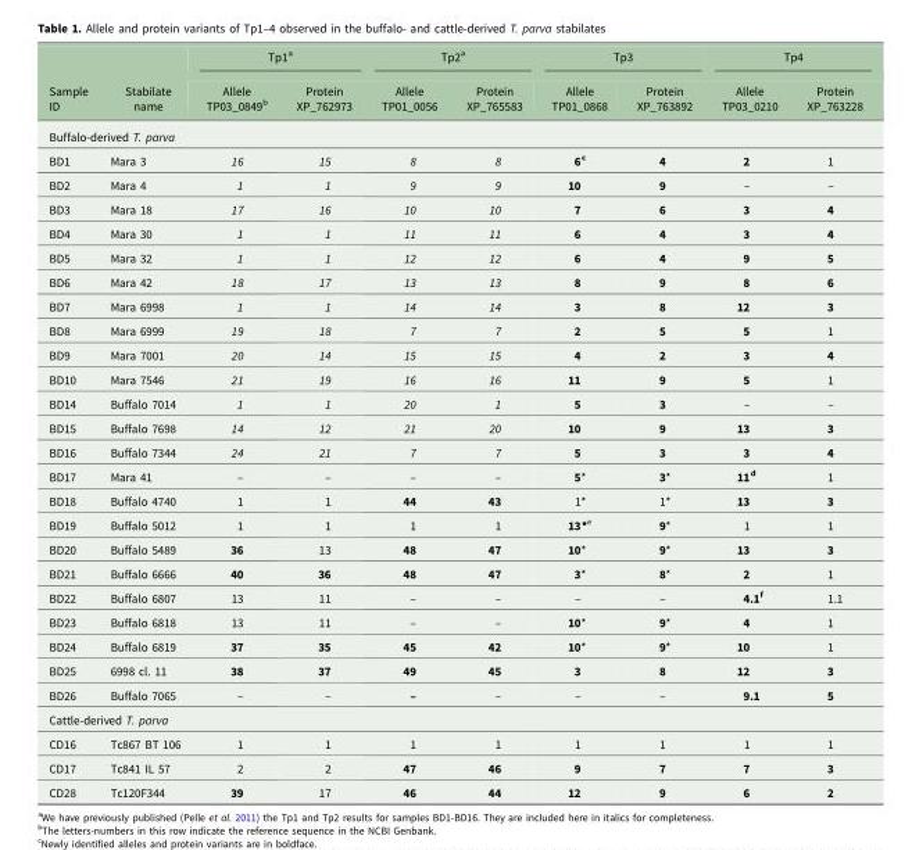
<table><thead><tr><td rowspan="2">Sample ID</td><td rowspan="2">Stabilate name</td><td colspan="2">Tp1<sup>a</sup></td><td colspan="2">Tp2<sup>a</sup></td><td colspan="2">Tp3</td><td colspan="2">Tp4</td></tr><tr><td>Allele TP03_0849<sup>b</sup></td><td>Protein XP_762973</td><td>Allele TP01_0056</td><td>Protein XP_765583</td><td>Allele TP01_0868</td><td>Protein XP_763892</td><td>Allele TP03_0210</td><td>Protein XP_763228</td></tr></thead><tbody><tr><td colspan="10">Buffalo-derived T. parva</td></tr><tr><td>BD1</td><td>Mara 3</td><td>16</td><td>15</td><td>8</td><td>8</td><td>6<sup>c</sup></td><td>4</td><td>2</td><td>1</td></tr><tr><td>BD2</td><td>Mara 4</td><td>1</td><td>1</td><td>9</td><td>9</td><td>10</td><td>9</td><td>–</td><td>–</td></tr><tr><td>BD3</td><td>Mara 18</td><td>17</td><td>16</td><td>10</td><td>10</td><td>7</td><td>6</td><td>3</td><td>4</td></tr><tr><td>BD4</td><td>Mara 30</td><td>1</td><td>1</td><td>11</td><td>11</td><td>6</td><td>4</td><td>3</td><td>4</td></tr><tr><td>BD5</td><td>Mara 32</td><td>1</td><td>1</td><td>12</td><td>12</td><td>6</td><td>4</td><td>9</td><td>5</td></tr><tr><td>BD6</td><td>Mara 42</td><td>18</td><td>17</td><td>13</td><td>13</td><td>8</td><td>9</td><td>8</td><td>6</td></tr><tr><td>BD7</td><td>Mara 6998</td><td>1</td><td>1</td><td>14</td><td>14</td><td>3</td><td>8</td><td>12</td><td>3</td></tr><tr><td>BD8</td><td>Mara 6999</td><td>19</td><td>18</td><td>7</td><td>7</td><td>2</td><td>5</td><td>5</td><td>1</td></tr><tr><td>BD9</td><td>Mara 7001</td><td>20</td><td>14</td><td>15</td><td>15</td><td>4</td><td>2</td><td>3</td><td>4</td></tr><tr><td>BD10</td><td>Mara 7546</td><td>21</td><td>19</td><td>16</td><td>16</td><td>11</td><td>9</td><td>5</td><td>1</td></tr><tr><td>BD14</td><td>Buffalo 7014</td><td>1</td><td>1</td><td>20</td><td>1</td><td>5</td><td>3</td><td>–</td><td>–</td></tr><tr><td>BD15</td><td>Buffalo 7698</td><td>14</td><td>12</td><td>21</td><td>20</td><td>10</td><td>9</td><td>13</td><td>3</td></tr><tr><td>BD16</td><td>Buffalo 7344</td><td>24</td><td>21</td><td>7</td><td>7</td><td>5</td><td>3</td><td>3</td><td>4</td></tr><tr><td>BD17</td><td>Mara 41</td><td>–</td><td>–</td><td>–</td><td>–</td><td>5*</td><td>3*</td><td>11<sup>d</sup></td><td>1</td></tr><tr><td>BD18</td><td>Buffalo 4740</td><td>1</td><td>1</td><td>44</td><td>43</td><td>1*</td><td>1*</td><td>13</td><td>3</td></tr><tr><td>BD19</td><td>Buffalo 5012</td><td>1</td><td>1</td><td>1</td><td>1</td><td>13*<sup>e</sup></td><td>9*</td><td>1</td><td>1</td></tr><tr><td>BD20</td><td>Buffalo 5489</td><td>36</td><td>13</td><td>48</td><td>47</td><td>10*</td><td>9*</td><td>13</td><td>3</td></tr><tr><td>BD21</td><td>Buffalo 6666</td><td>40</td><td>36</td><td>48</td><td>47</td><td>3*</td><td>8*</td><td>2</td><td>1</td></tr><tr><td>BD22</td><td>Buffalo 6807</td><td>13</td><td>11</td><td>–</td><td>–</td><td>–</td><td>–</td><td>4.1<sup>f</sup></td><td>1.1</td></tr><tr><td>BD23</td><td>Buffalo 6818</td><td>13</td><td>11</td><td>–</td><td>–</td><td>10*</td><td>9*</td><td>4</td><td>1</td></tr><tr><td>BD24</td><td>Buffalo 6819</td><td>37</td><td>35</td><td>45</td><td>42</td><td>10*</td><td>9*</td><td>10</td><td>1</td></tr><tr><td>BD25</td><td>6998 cl. 11</td><td>38</td><td>37</td><td>49</td><td>45</td><td>3</td><td>8</td><td>12</td><td>3</td></tr><tr><td>BD26</td><td>Buffalo 7065</td><td>–</td><td>–</td><td>–</td><td>–</td><td>–</td><td>–</td><td>9.1</td><td>5</td></tr><tr><td colspan="10">Cattle-derived T. parva</td></tr><tr><td>CD16</td><td>Tc867 BT 106</td><td>1</td><td>1</td><td>1</td><td>1</td><td>1</td><td>1</td><td>1</td><td>1</td></tr><tr><td>CD17</td><td>Tc841 IL 57</td><td>2</td><td>2</td><td>47</td><td>46</td><td>9</td><td>7</td><td>7</td><td>3</td></tr><tr><td>CD28</td><td>Tc120F344</td><td>39</td><td>17</td><td>46</td><td>44</td><td>12</td><td>9</td><td>6</td><td>2</td></tr></tbody></table>